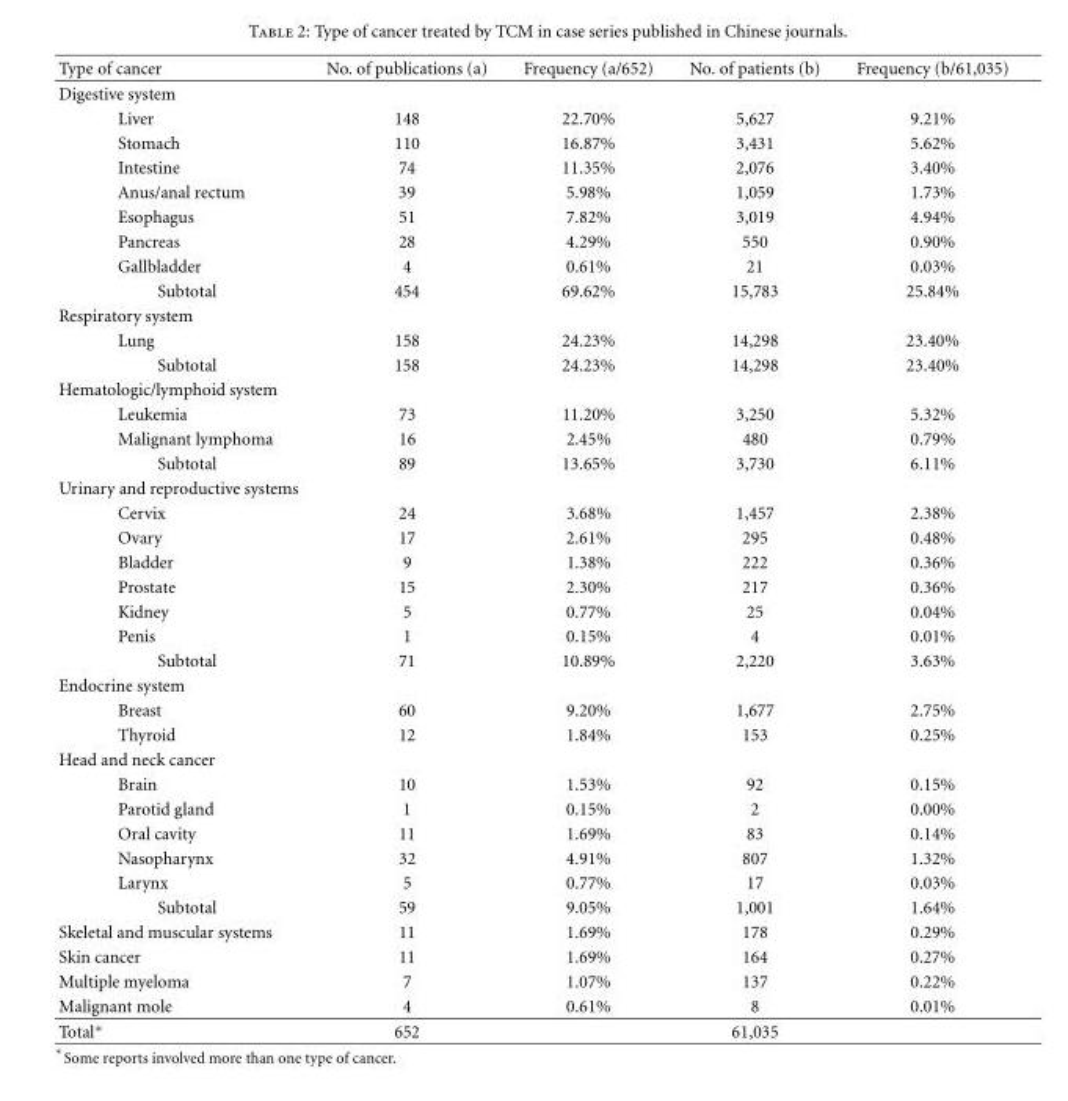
<table><thead><tr><td>Type of cancer</td><td>No. of publications (a)</td><td>Frequency (a/652)</td><td>No. of patients (b)</td><td>Frequency (b/61,035)</td></tr></thead><tbody><tr><td colspan="5">Digestive system</td></tr><tr><td>Liver</td><td>148</td><td>22.70%</td><td>5,627</td><td>9.21%</td></tr><tr><td>Stomach</td><td>110</td><td>16.87%</td><td>3,431</td><td>5.62%</td></tr><tr><td>Intestine</td><td>74</td><td>11.35%</td><td>2,076</td><td>3.40%</td></tr><tr><td>Anus/anal rectum</td><td>39</td><td>5.98%</td><td>1,059</td><td>1.73%</td></tr><tr><td>Esophagus</td><td>51</td><td>7.82%</td><td>3,019</td><td>4.94%</td></tr><tr><td>Pancreas</td><td>28</td><td>4.29%</td><td>550</td><td>0.90%</td></tr><tr><td>Gallbladder</td><td>4</td><td>0.61%</td><td>21</td><td>0.03%</td></tr><tr><td>Subtotal</td><td>454</td><td>69.62%</td><td>15,783</td><td>25.84%</td></tr><tr><td colspan="5">Respiratory system</td></tr><tr><td>Lung</td><td>158</td><td>24.23%</td><td>14,298</td><td>23.40%</td></tr><tr><td>Subtotal</td><td>158</td><td>24.23%</td><td>14,298</td><td>23.40%</td></tr><tr><td colspan="5">Hematologic/lymphoid system</td></tr><tr><td>Leukemia</td><td>73</td><td>11.20%</td><td>3,250</td><td>5.32%</td></tr><tr><td>Malignant lymphoma</td><td>16</td><td>2.45%</td><td>480</td><td>0.79%</td></tr><tr><td>Subtotal</td><td>89</td><td>13.65%</td><td>3,730</td><td>6.11%</td></tr><tr><td colspan="5">Urinary and reproductive systems</td></tr><tr><td>Cervix</td><td>24</td><td>3.68%</td><td>1,457</td><td>2.38%</td></tr><tr><td>Ovary</td><td>17</td><td>2.61%</td><td>295</td><td>0.48%</td></tr><tr><td>Bladder</td><td>9</td><td>1.38%</td><td>222</td><td>0.36%</td></tr><tr><td>Prostate</td><td>15</td><td>2.30%</td><td>217</td><td>0.36%</td></tr><tr><td>Kidney</td><td>5</td><td>0.77%</td><td>25</td><td>0.04%</td></tr><tr><td>Penis</td><td>1</td><td>0.15%</td><td>4</td><td>0.01%</td></tr><tr><td>Subtotal</td><td>71</td><td>10.89%</td><td>2,220</td><td>3.63%</td></tr><tr><td colspan="5">Endocrine system</td></tr><tr><td>Breast</td><td>60</td><td>9.20%</td><td>1,677</td><td>2.75%</td></tr><tr><td>Thyroid</td><td>12</td><td>1.84%</td><td>153</td><td>0.25%</td></tr><tr><td colspan="5">Head and neck cancer</td></tr><tr><td>Brain</td><td>10</td><td>1.53%</td><td>92</td><td>0.15%</td></tr><tr><td>Parotid gland</td><td>1</td><td>0.15%</td><td>2</td><td>0.00%</td></tr><tr><td>Oral cavity</td><td>11</td><td>1.69%</td><td>83</td><td>0.14%</td></tr><tr><td>Nasopharynx</td><td>32</td><td>4.91%</td><td>807</td><td>1.32%</td></tr><tr><td>Larynx</td><td>5</td><td>0.77%</td><td>17</td><td>0.03%</td></tr><tr><td>Subtotal</td><td>59</td><td>9.05%</td><td>1,001</td><td>1.64%</td></tr><tr><td>Skeletal and muscular systems</td><td>11</td><td>1.69%</td><td>178</td><td>0.29%</td></tr><tr><td>Skin cancer</td><td>11</td><td>1.69%</td><td>164</td><td>0.27%</td></tr><tr><td>Multiple myeloma</td><td>7</td><td>1.07%</td><td>137</td><td>0.22%</td></tr><tr><td>Malignant mole</td><td>4</td><td>0.61%</td><td>8</td><td>0.01%</td></tr><tr><td>Total∗</td><td>652</td><td></td><td>61,035</td><td></td></tr></tbody></table>